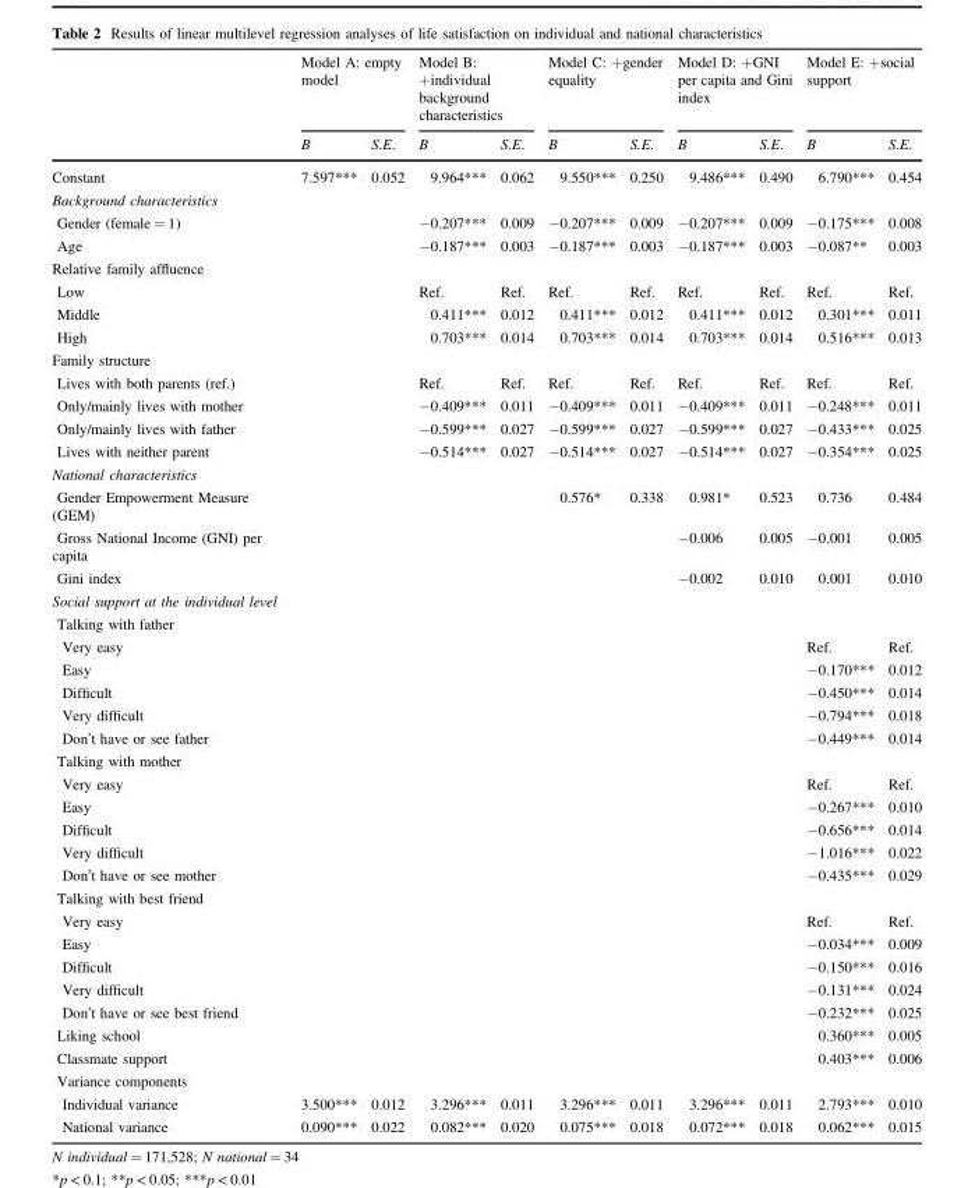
<table><thead><tr><td rowspan="2"></td><td colspan="2">Model A: empty model</td><td colspan="2">Model B: +individual background characteristics</td><td colspan="2">Model C: +gender equality</td><td colspan="2">Model D: +GNI per capita and Gini index</td><td colspan="2">Model E: +social support</td></tr><tr><td>B</td><td>S.E.</td><td>B</td><td>S.E.</td><td>B</td><td>S.E.</td><td>B</td><td>S.E.</td><td>B</td><td>S.E.</td></tr></thead><tbody><tr><td>Constant</td><td>7.597***</td><td>0.052</td><td>9.964***</td><td>0.062</td><td>9.550***</td><td>0.250</td><td>9.486***</td><td>0.490</td><td>6.790***</td><td>0.454</td></tr><tr><td colspan="11">Background characteristics</td></tr><tr><td>Gender (female = 1)</td><td></td><td></td><td>−0.207***</td><td>0.009</td><td>−0.207***</td><td>0.009</td><td>−0.207***</td><td>0.009</td><td>−0.175***</td><td>0.008</td></tr><tr><td>Age</td><td></td><td></td><td>−0.187***</td><td>0.003</td><td>−0.187***</td><td>0.003</td><td>−0.187***</td><td>0.003</td><td>−0.087**</td><td>0.003</td></tr><tr><td colspan="11">Relative family affluence</td></tr><tr><td>Low</td><td></td><td></td><td>Ref.</td><td>Ref.</td><td>Ref.</td><td>Ref.</td><td>Ref.</td><td>Ref.</td><td>Ref.</td><td>Ref.</td></tr><tr><td>Middle</td><td></td><td></td><td>0.411***</td><td>0.012</td><td>0.411***</td><td>0.012</td><td>0.411***</td><td>0.012</td><td>0.301***</td><td>0.011</td></tr><tr><td>High</td><td></td><td></td><td>0.703***</td><td>0.014</td><td>0.703***</td><td>0.014</td><td>0.703***</td><td>0.014</td><td>0.516***</td><td>0.013</td></tr><tr><td colspan="11">Family structure</td></tr><tr><td>Lives with both parents (ref.)</td><td></td><td></td><td>Ref.</td><td>Ref.</td><td>Ref.</td><td>Ref.</td><td>Ref.</td><td>Ref.</td><td>Ref.</td><td>Ref.</td></tr><tr><td>Only/mainly lives with mother</td><td></td><td></td><td>−0.409***</td><td>0.011</td><td>−0.409***</td><td>0.011</td><td>−0.409***</td><td>0.011</td><td>−0.248***</td><td>0.011</td></tr><tr><td>Only/mainly lives with father</td><td></td><td></td><td>−0.599***</td><td>0.027</td><td>−0.599***</td><td>0.027</td><td>−0.599***</td><td>0.027</td><td>−0.433***</td><td>0.025</td></tr><tr><td>Lives with neither parent</td><td></td><td></td><td>−0.514***</td><td>0.027</td><td>−0.514***</td><td>0.027</td><td>−0.514***</td><td>0.027</td><td>−0.354***</td><td>0.025</td></tr><tr><td colspan="11">National characteristics</td></tr><tr><td>Gender Empowerment Measure (GEM)</td><td></td><td></td><td></td><td></td><td>0.576*</td><td>0.338</td><td>0.981*</td><td>0.523</td><td>0.736</td><td>0.484</td></tr><tr><td>Gross National Income (GNI) per capita</td><td></td><td></td><td></td><td></td><td></td><td></td><td>−0.006</td><td>0.005</td><td>−0.001</td><td>0.005</td></tr><tr><td>Gini index</td><td></td><td></td><td></td><td></td><td></td><td></td><td>−0.002</td><td>0.010</td><td>0.001</td><td>0.010</td></tr><tr><td colspan="11">Social support at the individual level</td></tr><tr><td colspan="11">Talking with father</td></tr><tr><td>Very easy</td><td></td><td></td><td></td><td></td><td></td><td></td><td></td><td></td><td>Ref.</td><td>Ref.</td></tr><tr><td>Easy</td><td></td><td></td><td></td><td></td><td></td><td></td><td></td><td></td><td>−0.170***</td><td>0.012</td></tr><tr><td>Difficult</td><td></td><td></td><td></td><td></td><td></td><td></td><td></td><td></td><td>−0.450***</td><td>0.014</td></tr><tr><td>Very difficult</td><td></td><td></td><td></td><td></td><td></td><td></td><td></td><td></td><td>−0.794***</td><td>0.018</td></tr><tr><td>Don’t have or see father</td><td></td><td></td><td></td><td></td><td></td><td></td><td></td><td></td><td>−0.449***</td><td>0.014</td></tr><tr><td colspan="11">Talking with mother</td></tr><tr><td>Very easy</td><td></td><td></td><td></td><td></td><td></td><td></td><td></td><td></td><td>Ref.</td><td>Ref.</td></tr><tr><td>Easy</td><td></td><td></td><td></td><td></td><td></td><td></td><td></td><td></td><td>−0.267***</td><td>0.010</td></tr><tr><td>Difficult</td><td></td><td></td><td></td><td></td><td></td><td></td><td></td><td></td><td>−0.656***</td><td>0.014</td></tr><tr><td>Very difficult</td><td></td><td></td><td></td><td></td><td></td><td></td><td></td><td></td><td>−1.016***</td><td>0.022</td></tr><tr><td>Don’t have or see mother</td><td></td><td></td><td></td><td></td><td></td><td></td><td></td><td></td><td>−0.435***</td><td>0.029</td></tr><tr><td colspan="11">Talking with best friend</td></tr><tr><td>Very easy</td><td></td><td></td><td></td><td></td><td></td><td></td><td></td><td></td><td>Ref.</td><td>Ref.</td></tr><tr><td>Easy</td><td></td><td></td><td></td><td></td><td></td><td></td><td></td><td></td><td>−0.034***</td><td>0.009</td></tr><tr><td>Difficult</td><td></td><td></td><td></td><td></td><td></td><td></td><td></td><td></td><td>−0.150***</td><td>0.016</td></tr><tr><td>Very difficult</td><td></td><td></td><td></td><td></td><td></td><td></td><td></td><td></td><td>−0.131***</td><td>0.024</td></tr><tr><td>Don’t have or see best friend</td><td></td><td></td><td></td><td></td><td></td><td></td><td></td><td></td><td>−0.232***</td><td>0.025</td></tr><tr><td>Liking school</td><td></td><td></td><td></td><td></td><td></td><td></td><td></td><td></td><td>0.360***</td><td>0.005</td></tr><tr><td>Classmate support</td><td></td><td></td><td></td><td></td><td></td><td></td><td></td><td></td><td>0.403***</td><td>0.006</td></tr><tr><td colspan="11">Variance components</td></tr><tr><td>Individual variance</td><td>3.500***</td><td>0.012</td><td>3.296***</td><td>0.011</td><td>3.296***</td><td>0.011</td><td>3.296***</td><td>0.011</td><td>2.793***</td><td>0.010</td></tr><tr><td>National variance</td><td>0.090***</td><td>0.022</td><td>0.082***</td><td>0.020</td><td>0.075***</td><td>0.018</td><td>0.072***</td><td>0.018</td><td>0.062***</td><td>0.015</td></tr></tbody></table>